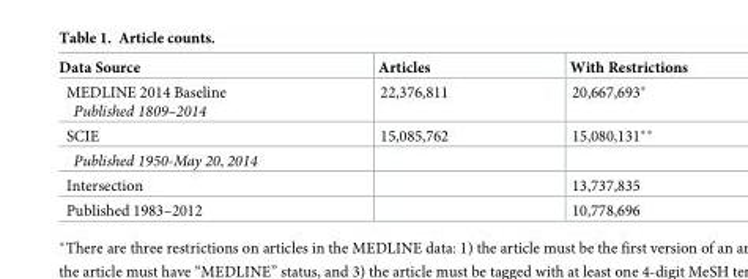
<table><thead><tr><td>Data Source</td><td>Articles</td><td>With Restrictions</td></tr></thead><tbody><tr><td>MEDLINE 2014 Baseline Published 1809–2014</td><td>22,376,811</td><td>20,667,693*</td></tr><tr><td>SCIE</td><td>15,085,762</td><td>15,080,131**</td></tr><tr><td colspan="3">Published 1950-May 20, 2014</td></tr><tr><td>Intersection</td><td></td><td>13,737,835</td></tr><tr><td>Published 1983–2012</td><td></td><td>10,778,696</td></tr></tbody></table>